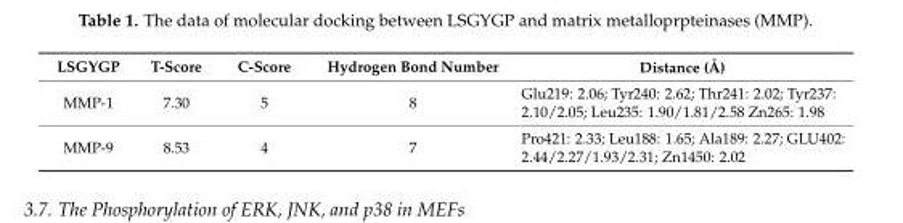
<table><thead><tr><td>LSGYGP</td><td>T-Score</td><td>C-Score</td><td>Hydrogen Bond Number</td><td>Distance (Å)</td></tr></thead><tbody><tr><td>MMP-1</td><td>7.30</td><td>5</td><td>8</td><td>Glu219: 2.06; Tyr240: 2.62; Thr241: 2.02; Tyr237: 2.10/2.05; Leu235: 1.90/1.81/2.58 Zn265: 1.98</td></tr><tr><td>MMP-9</td><td>8.53</td><td>4</td><td>7</td><td>Pro421: 2.33; Leu188: 1.65; Ala189: 2.27; GLU402: 2.44/2.27/1.93/2.31; Zn1450: 2.02</td></tr></tbody></table>